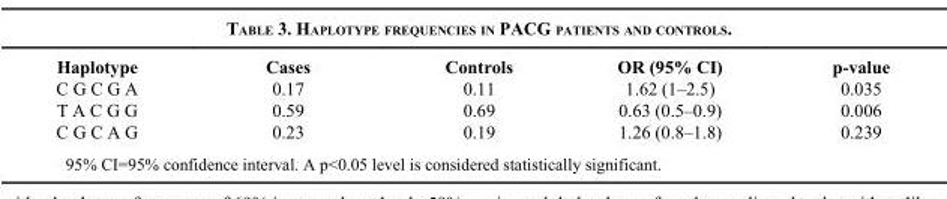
<table><thead><tr><td>Haplotype</td><td>Cases</td><td>Controls</td><td>OR (95% CI)</td><td>p-value</td></tr></thead><tbody><tr><td>C G C G A</td><td>0.17</td><td>0.11</td><td>1.62 (1–2.5)</td><td>0.035</td></tr><tr><td>T A C G G</td><td>0.59</td><td>0.69</td><td>0.63 (0.5–0.9)</td><td>0.006</td></tr><tr><td>C G C A G</td><td>0.23</td><td>0.19</td><td>1.26 (0.8–1.8)</td><td>0.239</td></tr></tbody></table>